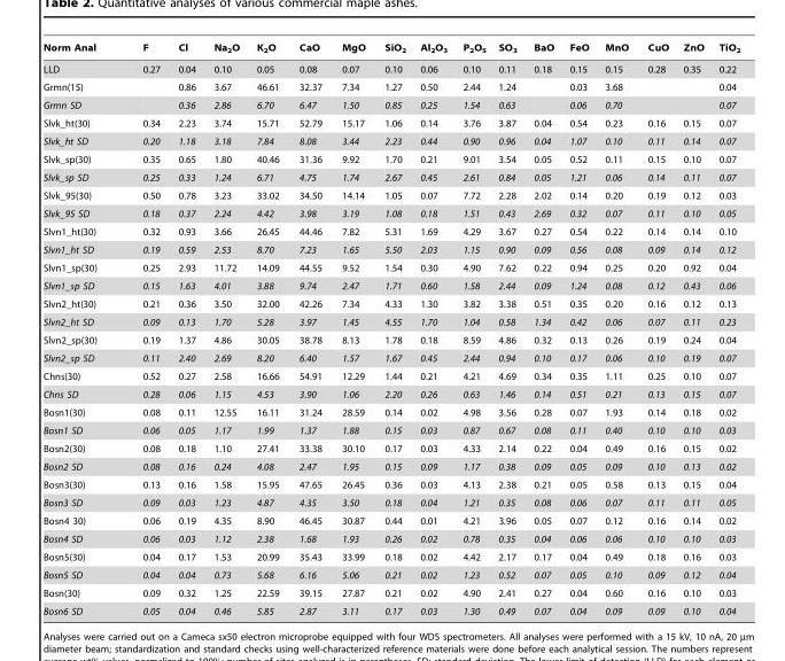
<table><thead><tr><td>Norm Anal</td><td>F</td><td>Cl</td><td>Na<sub>2</sub>O</td><td>K<sub>2</sub>O</td><td>CaO</td><td>MgO</td><td>SiO<sub>2</sub></td><td>Al<sub>2</sub>O<sub>3</sub></td><td>P<sub>2</sub>O<sub>5</sub></td><td>SO<sub>3</sub></td><td>BaO</td><td>FeO</td><td>MnO</td><td>CuO</td><td>ZnO</td><td>TiO<sub>2</sub></td></tr></thead><tbody><tr><td>LLD</td><td>0.27</td><td>0.04</td><td>0.10</td><td>0.05</td><td>0.08</td><td>0.07</td><td>0.10</td><td>0.06</td><td>0.10</td><td>0.11</td><td>0.18</td><td>0.15</td><td>0.15</td><td>0.28</td><td>0.35</td><td>0.22</td></tr><tr><td>Grmn(15)</td><td></td><td>0.86</td><td>3.67</td><td>46.61</td><td>32.37</td><td>7.34</td><td>1.27</td><td>0.50</td><td>2.44</td><td>1.24</td><td></td><td>0.03</td><td>3.68</td><td></td><td></td><td>0.04</td></tr><tr><td>Grmn SD</td><td></td><td>0.36</td><td>2.86</td><td>6.70</td><td>6.47</td><td>1.50</td><td>0.85</td><td>0.25</td><td>1.54</td><td>0.63</td><td></td><td>0.06</td><td>0.70</td><td></td><td></td><td>0.07</td></tr><tr><td>Slvk_ht(30)</td><td>0.34</td><td>2.23</td><td>3.74</td><td>15.71</td><td>52.79</td><td>15.17</td><td>1.06</td><td>0.14</td><td>3.76</td><td>3.87</td><td>0.04</td><td>0.54</td><td>0.23</td><td>0.16</td><td>0.15</td><td>0.07</td></tr><tr><td>Slvk_ht SD</td><td>0.20</td><td>1.18</td><td>3.18</td><td>7.84</td><td>8.08</td><td>3.44</td><td>2.23</td><td>0.44</td><td>0.90</td><td>0.96</td><td>0.04</td><td>1.07</td><td>0.10</td><td>0.11</td><td>0.14</td><td>0.07</td></tr><tr><td>Slvk_sp(30)</td><td>0.35</td><td>0.65</td><td>1.80</td><td>40.46</td><td>31.36</td><td>9.92</td><td>1.70</td><td>0.21</td><td>9.01</td><td>3.54</td><td>0.05</td><td>0.52</td><td>0.11</td><td>0.15</td><td>0.10</td><td>0.07</td></tr><tr><td>Slvk_sp SD</td><td>0.25</td><td>0.33</td><td>1.24</td><td>6.71</td><td>4.75</td><td>1.74</td><td>2.67</td><td>0.45</td><td>2.61</td><td>0.84</td><td>0.05</td><td>1.21</td><td>0.06</td><td>0.14</td><td>0.11</td><td>0.07</td></tr><tr><td>Slvk_95(30)</td><td>0.50</td><td>0.78</td><td>3.23</td><td>33.02</td><td>34.50</td><td>14.14</td><td>1.05</td><td>0.07</td><td>7.72</td><td>2.28</td><td>2.02</td><td>0.14</td><td>0.20</td><td>0.19</td><td>0.12</td><td>0.03</td></tr><tr><td>Slvk_95 SD</td><td>0.18</td><td>0.37</td><td>2.24</td><td>4.42</td><td>3.98</td><td>3.19</td><td>1.08</td><td>0.18</td><td>1.51</td><td>0.43</td><td>2.69</td><td>0.32</td><td>0.07</td><td>0.11</td><td>0.10</td><td>0.05</td></tr><tr><td>Slvn1_ht(30)</td><td>0.32</td><td>0.93</td><td>3.66</td><td>26.45</td><td>44.46</td><td>7.82</td><td>5.31</td><td>1.69</td><td>4.29</td><td>3.67</td><td>0.27</td><td>0.54</td><td>0.22</td><td>0.14</td><td>0.14</td><td>0.10</td></tr><tr><td>Slvn1_ht SD</td><td>0.19</td><td>0.59</td><td>2.53</td><td>8.70</td><td>7.23</td><td>1.65</td><td>5.50</td><td>2.03</td><td>1.15</td><td>0.90</td><td>0.09</td><td>0.56</td><td>0.08</td><td>0.09</td><td>0.14</td><td>0.12</td></tr><tr><td>Slvn1_sp(30)</td><td>0.25</td><td>2.93</td><td>11.72</td><td>14.09</td><td>44.55</td><td>9.52</td><td>1.54</td><td>0.30</td><td>4.90</td><td>7.62</td><td>0.22</td><td>0.94</td><td>0.25</td><td>0.20</td><td>0.92</td><td>0.04</td></tr><tr><td>Slvn1_sp SD</td><td>0.15</td><td>1.63</td><td>4.01</td><td>3.88</td><td>9.74</td><td>2.47</td><td>1.71</td><td>0.60</td><td>1.58</td><td>2.44</td><td>0.09</td><td>1.24</td><td>0.08</td><td>0.12</td><td>0.43</td><td>0.06</td></tr><tr><td>Slvn2_ht(30)</td><td>0.21</td><td>0.36</td><td>3.50</td><td>32.00</td><td>42.26</td><td>7.34</td><td>4.33</td><td>1.30</td><td>3.82</td><td>3.38</td><td>0.51</td><td>0.35</td><td>0.20</td><td>0.16</td><td>0.12</td><td>0.13</td></tr><tr><td>Slvn2_ht SD</td><td>0.09</td><td>0.13</td><td>1.70</td><td>5.28</td><td>3.97</td><td>1.45</td><td>4.55</td><td>1.70</td><td>1.04</td><td>0.58</td><td>1.34</td><td>0.42</td><td>0.06</td><td>0.07</td><td>0.11</td><td>0.23</td></tr><tr><td>Slvn2_sp(30)</td><td>0.19</td><td>1.37</td><td>4.86</td><td>30.05</td><td>38.78</td><td>8.13</td><td>1.78</td><td>0.18</td><td>8.59</td><td>4.86</td><td>0.32</td><td>0.13</td><td>0.26</td><td>0.19</td><td>0.24</td><td>0.04</td></tr><tr><td>Slvn2_sp SD</td><td>0.11</td><td>2.40</td><td>2.69</td><td>8.20</td><td>6.40</td><td>1.57</td><td>1.67</td><td>0.45</td><td>2.44</td><td>0.94</td><td>0.10</td><td>0.17</td><td>0.06</td><td>0.10</td><td>0.19</td><td>0.07</td></tr><tr><td>Chns(30)</td><td>0.52</td><td>0.27</td><td>2.58</td><td>16.66</td><td>54.91</td><td>12.29</td><td>1.44</td><td>0.21</td><td>4.21</td><td>4.69</td><td>0.34</td><td>0.35</td><td>1.11</td><td>0.25</td><td>0.10</td><td>0.07</td></tr><tr><td>Chns SD</td><td>0.28</td><td>0.06</td><td>1.15</td><td>4.53</td><td>3.90</td><td>1.06</td><td>2.20</td><td>0.26</td><td>0.63</td><td>1.46</td><td>0.14</td><td>0.51</td><td>0.21</td><td>0.13</td><td>0.15</td><td>0.07</td></tr><tr><td>Bosn1(30)</td><td>0.08</td><td>0.11</td><td>12.55</td><td>16.11</td><td>31.24</td><td>28.59</td><td>0.14</td><td>0.02</td><td>4.98</td><td>3.56</td><td>0.28</td><td>0.07</td><td>1.93</td><td>0.14</td><td>0.18</td><td>0.02</td></tr><tr><td>Bosn1 SD</td><td>0.06</td><td>0.05</td><td>1.17</td><td>1.99</td><td>1.37</td><td>1.88</td><td>0.15</td><td>0.03</td><td>0.87</td><td>0.67</td><td>0.08</td><td>0.11</td><td>0.40</td><td>0.10</td><td>0.10</td><td>0.03</td></tr><tr><td>Bosn2(30)</td><td>0.08</td><td>0.18</td><td>1.10</td><td>27.41</td><td>33.38</td><td>30.10</td><td>0.17</td><td>0.03</td><td>4.33</td><td>2.14</td><td>0.22</td><td>0.04</td><td>0.49</td><td>0.16</td><td>0.15</td><td>0.02</td></tr><tr><td>Bosn2 SD</td><td>0.08</td><td>0.16</td><td>0.24</td><td>4.08</td><td>2.47</td><td>1.95</td><td>0.15</td><td>0.09</td><td>1.17</td><td>0.38</td><td>0.09</td><td>0.05</td><td>0.09</td><td>0.10</td><td>0.13</td><td>0.02</td></tr><tr><td>Bosn3(30)</td><td>0.13</td><td>0.16</td><td>1.58</td><td>15.95</td><td>47.65</td><td>26.45</td><td>0.36</td><td>0.03</td><td>4.13</td><td>2.38</td><td>0.21</td><td>0.05</td><td>0.58</td><td>0.13</td><td>0.15</td><td>0.04</td></tr><tr><td>Bosn3 SD</td><td>0.09</td><td>0.03</td><td>1.23</td><td>4.87</td><td>4.35</td><td>3.50</td><td>0.18</td><td>0.04</td><td>1.21</td><td>0.35</td><td>0.08</td><td>0.06</td><td>0.07</td><td>0.11</td><td>0.11</td><td>0.05</td></tr><tr><td>Bosn4 30)</td><td>0.06</td><td>0.19</td><td>4.35</td><td>8.90</td><td>46.45</td><td>30.87</td><td>0.44</td><td>0.01</td><td>4.21</td><td>3.96</td><td>0.05</td><td>0.07</td><td>0.12</td><td>0.16</td><td>0.14</td><td>0.02</td></tr><tr><td>Bosn4 SD</td><td>0.06</td><td>0.03</td><td>1.12</td><td>2.38</td><td>1.68</td><td>1.93</td><td>0.26</td><td>0.02</td><td>0.78</td><td>0.35</td><td>0.04</td><td>0.06</td><td>0.06</td><td>0.10</td><td>0.10</td><td>0.03</td></tr><tr><td>Bosn5(30)</td><td>0.04</td><td>0.17</td><td>1.53</td><td>20.99</td><td>35.43</td><td>33.99</td><td>0.18</td><td>0.02</td><td>4.42</td><td>2.17</td><td>0.17</td><td>0.04</td><td>0.49</td><td>0.18</td><td>0.16</td><td>0.03</td></tr><tr><td>Bosn5 SD</td><td>0.04</td><td>0.04</td><td>0.73</td><td>5.68</td><td>6.16</td><td>5.06</td><td>0.21</td><td>0.02</td><td>1.23</td><td>0.52</td><td>0.07</td><td>0.05</td><td>0.10</td><td>0.09</td><td>0.12</td><td>0.04</td></tr><tr><td>Bosn(30)</td><td>0.09</td><td>0.32</td><td>1.25</td><td>22.59</td><td>39.15</td><td>27.87</td><td>0.21</td><td>0.02</td><td>4.90</td><td>2.41</td><td>0.27</td><td>0.04</td><td>0.60</td><td>0.16</td><td>0.10</td><td>0.03</td></tr><tr><td>Bosn6 SD</td><td>0.05</td><td>0.04</td><td>0.46</td><td>5.85</td><td>2.87</td><td>3.11</td><td>0.17</td><td>0.03</td><td>1.30</td><td>0.49</td><td>0.07</td><td>0.04</td><td>0.09</td><td>0.09</td><td>0.10</td><td>0.04</td></tr></tbody></table>